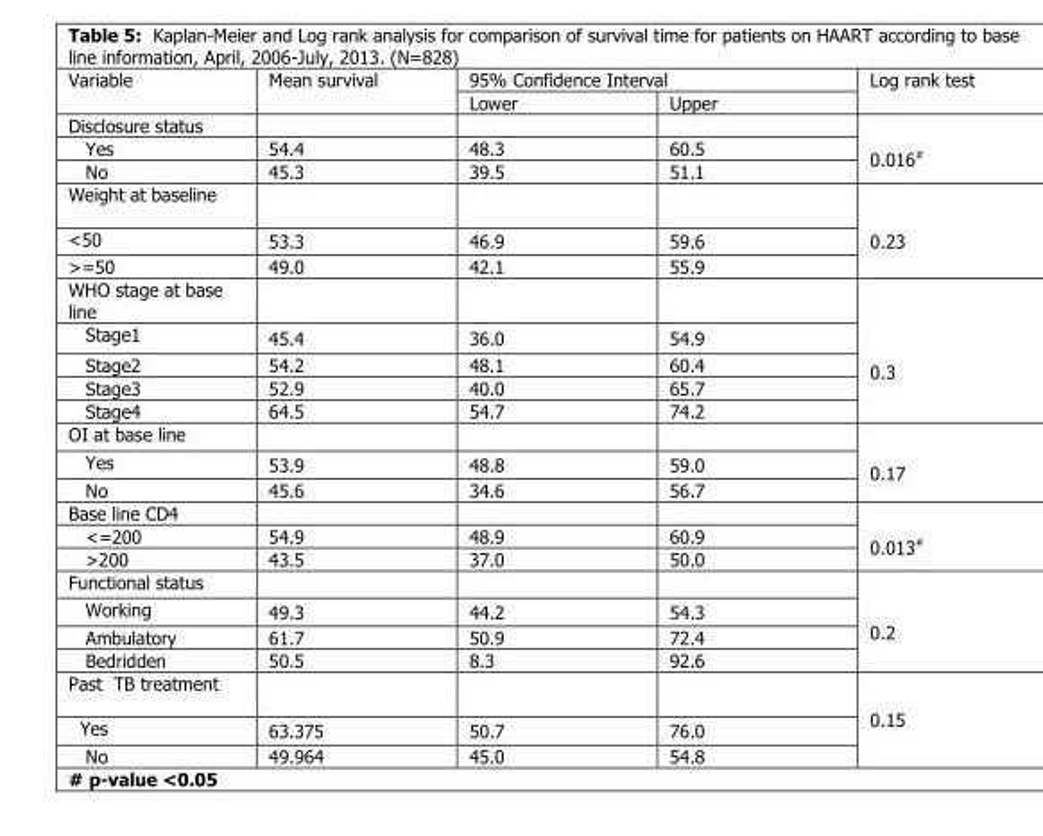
<table><thead><tr><td rowspan="2">Variable</td><td rowspan="2">Mean survival</td><td colspan="2">95% Confidence Interval</td><td rowspan="2">Log rank test</td></tr><tr><td>Lower</td><td>Upper</td></tr></thead><tbody><tr><td colspan="4">Disclosure status</td><td rowspan="3">0.016#</td></tr><tr><td>Yes</td><td>54.4</td><td>48.3</td><td>60.5</td></tr><tr><td>No</td><td>45.3</td><td>39.5</td><td>51.1</td></tr><tr><td colspan="4">Weight at baseline</td><td rowspan="3">0.23</td></tr><tr><td>&lt;50</td><td>53.3</td><td>46.9</td><td>59.6</td></tr><tr><td>&gt;=50</td><td>49.0</td><td>42.1</td><td>55.9</td></tr><tr><td colspan="4">WHO stage at base line</td><td rowspan="5">0.3</td></tr><tr><td>Stage1</td><td>45.4</td><td>36.0</td><td>54.9</td></tr><tr><td>Stage2</td><td>54.2</td><td>48.1</td><td>60.4</td></tr><tr><td>Stage3</td><td>52.9</td><td>40.0</td><td>65.7</td></tr><tr><td>Stage4</td><td>64.5</td><td>54.7</td><td>74.2</td></tr><tr><td colspan="4">OI at base line</td><td rowspan="3">0.17</td></tr><tr><td>Yes</td><td>53.9</td><td>48.8</td><td>59.0</td></tr><tr><td>No</td><td>45.6</td><td>34.6</td><td>56.7</td></tr><tr><td colspan="4">Base line CD4</td><td rowspan="3">0.013#</td></tr><tr><td>&lt;=200</td><td>54.9</td><td>48.9</td><td>60.9</td></tr><tr><td>&gt;200</td><td>43.5</td><td>37.0</td><td>50.0</td></tr><tr><td colspan="4">Functional status</td><td rowspan="4">0.2</td></tr><tr><td>Working</td><td>49.3</td><td>44.2</td><td>54.3</td></tr><tr><td>Ambulatory</td><td>61.7</td><td>50.9</td><td>72.4</td></tr><tr><td>Bedridden</td><td>50.5</td><td>8.3</td><td>92.6</td></tr><tr><td colspan="4">Past TB treatment</td><td rowspan="3">0.15</td></tr><tr><td>Yes</td><td>63.375</td><td>50.7</td><td>76.0</td></tr><tr><td>No</td><td>49.964</td><td>45.0</td><td>54.8</td></tr></tbody></table>